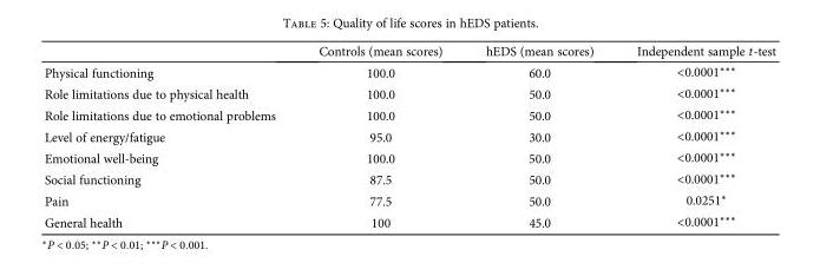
<table><thead><tr><td></td><td>Controls (mean scores)</td><td>hEDS (mean scores)</td><td>Independent sample t-test</td></tr></thead><tbody><tr><td>Physical functioning</td><td>100.0</td><td>60.0</td><td>&lt;0.0001∗∗∗</td></tr><tr><td>Role limitations due to physical health</td><td>100.0</td><td>50.0</td><td>&lt;0.0001∗∗∗</td></tr><tr><td>Role limitations due to emotional problems</td><td>100.0</td><td>50.0</td><td>&lt;0.0001∗∗∗</td></tr><tr><td>Level of energy/fatigue</td><td>95.0</td><td>30.0</td><td>&lt;0.0001∗∗∗</td></tr><tr><td>Emotional well-being</td><td>100.0</td><td>50.0</td><td>&lt;0.0001∗∗∗</td></tr><tr><td>Social functioning</td><td>87.5</td><td>50.0</td><td>&lt;0.0001∗∗∗</td></tr><tr><td>Pain</td><td>77.5</td><td>50.0</td><td>0.0251∗</td></tr><tr><td>General health</td><td>100</td><td>45.0</td><td>&lt;0.0001∗∗∗</td></tr></tbody></table>